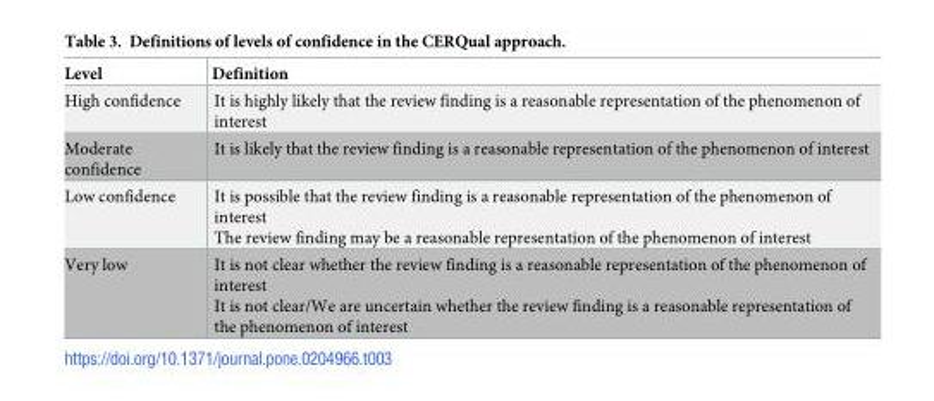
<table><thead><tr><td>Level</td><td>Definition</td></tr></thead><tbody><tr><td>High confidence</td><td>It is highly likely that the review finding is a reasonable representation of the phenomenon of interest</td></tr><tr><td>Moderate confidence</td><td>It is likely that the review finding is a reasonable representation of the phenomenon of interest</td></tr><tr><td>Low confidence</td><td>It is possible that the review finding is a reasonable representation of the phenomenon of interest The review finding may be a reasonable representation of the phenomenon of interest</td></tr><tr><td>Very low</td><td>It is not clear whether the review finding is a reasonable representation of the phenomenon of interest It is not clear/We are uncertain whether the review finding is a reasonable representation of the phenomenon of interest</td></tr></tbody></table>